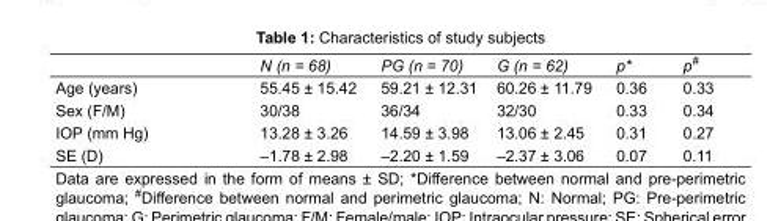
<table><thead><tr><td></td><td>N (n = 68)</td><td>PG (n = 70)</td><td>G (n = 62)</td><td>p*</td><td>p<sup>#</sup></td></tr></thead><tbody><tr><td>Age (years)</td><td>55.45 ± 15.42</td><td>59.21 ± 12.31</td><td>60.26 ± 11.79</td><td>0.36</td><td>0.33</td></tr><tr><td>Sex (F/M)</td><td>30/38</td><td>36/34</td><td>32/30</td><td>0.33</td><td>0.34</td></tr><tr><td>IOP (mm Hg)</td><td>13.28 ± 3.26</td><td>14.59 ± 3.98</td><td>13.06 ± 2.45</td><td>0.31</td><td>0.27</td></tr><tr><td>SE (D)</td><td>–1.78 ± 2.98</td><td>–2.20 ± 1.59</td><td>–2.37 ± 3.06</td><td>0.07</td><td>0.11</td></tr></tbody></table>